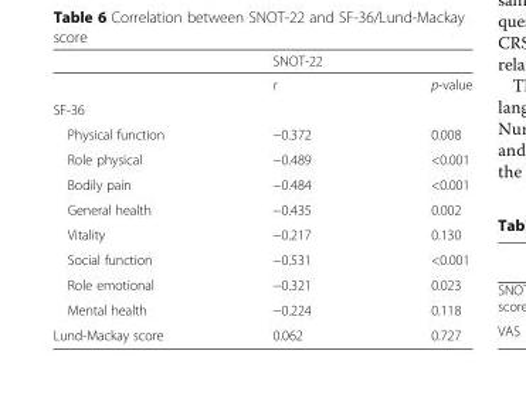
<table><thead><tr><td></td><td>SNOT-22</td><td></td></tr></thead><tbody><tr><td></td><td>r</td><td>p-value</td></tr><tr><td colspan="3">SF-36</td></tr><tr><td>Physical function</td><td>−0.372</td><td>0.008</td></tr><tr><td>Role physical</td><td>−0.489</td><td>&lt;0.001</td></tr><tr><td>Bodily pain</td><td>−0.484</td><td>&lt;0.001</td></tr><tr><td>General health</td><td>−0.435</td><td>0.002</td></tr><tr><td>Vitality</td><td>−0.217</td><td>0.130</td></tr><tr><td>Social function</td><td>−0.531</td><td>&lt;0.001</td></tr><tr><td>Role emotional</td><td>−0.321</td><td>0.023</td></tr><tr><td>Mental health</td><td>−0.224</td><td>0.118</td></tr><tr><td>Lund-Mackay score</td><td>0.062</td><td>0.727</td></tr></tbody></table>